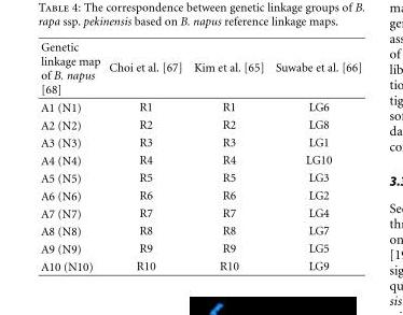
<table><thead><tr><td>Genetic linkage map of B. napus [68]</td><td>Choi et al. [67]</td><td>Kim et al. [65]</td><td>Suwabe et al. [66]</td></tr></thead><tbody><tr><td>A1 (N1)</td><td>R1</td><td>R1</td><td>LG6</td></tr><tr><td>A2 (N2)</td><td>R2</td><td>R2</td><td>LG8</td></tr><tr><td>A3 (N3)</td><td>R3</td><td>R3</td><td>LG1</td></tr><tr><td>A4 (N4)</td><td>R4</td><td>R4</td><td>LG10</td></tr><tr><td>A5 (N5)</td><td>R5</td><td>R5</td><td>LG3</td></tr><tr><td>A6 (N6)</td><td>R6</td><td>R6</td><td>LG2</td></tr><tr><td>A7 (N7)</td><td>R7</td><td>R7</td><td>LG4</td></tr><tr><td>A8 (N8)</td><td>R8</td><td>R8</td><td>LG7</td></tr><tr><td>A9 (N9)</td><td>R9</td><td>R9</td><td>LG5</td></tr><tr><td>A10 (N10)</td><td>R10</td><td>R10</td><td>LG9</td></tr></tbody></table>